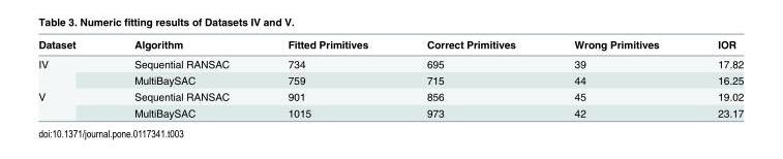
<table><thead><tr><td>Dataset</td><td>Algorithm</td><td>Fitted Primitives</td><td>Correct Primitives</td><td>Wrong Primitives</td><td>IOR</td></tr></thead><tbody><tr><td rowspan="2">IV</td><td>Sequential RANSAC</td><td>734</td><td>695</td><td>39</td><td>17.82</td></tr><tr><td>MultiBaySAC</td><td>759</td><td>715</td><td>44</td><td>16.25</td></tr><tr><td rowspan="2">V</td><td>Sequential RANSAC</td><td>901</td><td>856</td><td>45</td><td>19.02</td></tr><tr><td>MultiBaySAC</td><td>1015</td><td>973</td><td>42</td><td>23.17</td></tr></tbody></table>